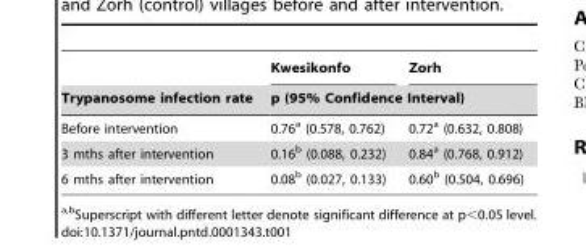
<table><thead><tr><td rowspan="2">Trypanosome infection rate</td><td>Kwesikonfo</td><td>Zorh</td></tr><tr><td colspan="2">p (95% Confidence Interval)</td></tr></thead><tbody><tr><td>Before intervention</td><td>0.76<sup>a</sup> (0.578, 0.762)</td><td>0.72<sup>a</sup> (0.632, 0.808)</td></tr><tr><td>3 mths after intervention</td><td>0.16<sup>b</sup> (0.088, 0.232)</td><td>0.84<sup>a</sup> (0.768, 0.912)</td></tr><tr><td>6 mths after intervention</td><td>0.08<sup>b</sup> (0.027, 0.133)</td><td>0.60<sup>b</sup> (0.504, 0.696)</td></tr></tbody></table>